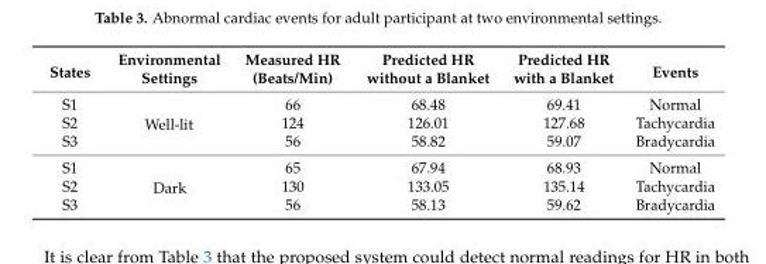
<table><thead><tr><td>States</td><td>Environmental Settings</td><td>Measured HR (Beats/Min)</td><td>Predicted HR without a Blanket</td><td>Predicted HR with a Blanket</td><td>Events</td></tr></thead><tbody><tr><td>S1</td><td rowspan="3">Well-lit</td><td>66</td><td>68.48</td><td>69.41</td><td>Normal</td></tr><tr><td>S2</td><td>124</td><td>126.01</td><td>127.68</td><td>Tachycardia</td></tr><tr><td>S3</td><td>56</td><td>58.82</td><td>59.07</td><td>Bradycardia</td></tr><tr><td>S1</td><td rowspan="3">Dark</td><td>65</td><td>67.94</td><td>68.93</td><td>Normal</td></tr><tr><td>S2</td><td>130</td><td>133.05</td><td>135.14</td><td>Tachycardia</td></tr><tr><td>S3</td><td>56</td><td>58.13</td><td>59.62</td><td>Bradycardia</td></tr></tbody></table>